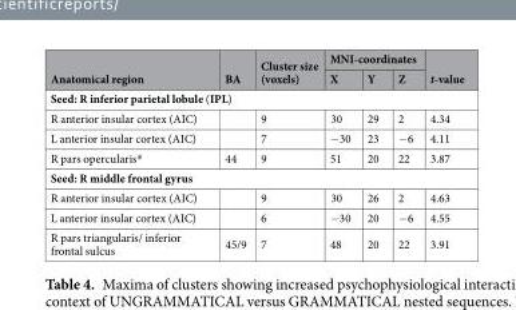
<table><thead><tr><td rowspan="2">Anatomical region</td><td rowspan="2">BA</td><td rowspan="2">Cluster size (voxels)</td><td colspan="3">MNI-coordinates</td><td rowspan="2">t-value</td></tr><tr><td>X</td><td>Y</td><td>Z</td></tr></thead><tbody><tr><td colspan="7">Seed: R inferior parietal lobule (IPL)</td></tr><tr><td>R anterior insular cortex (AIC)</td><td></td><td>9</td><td>30</td><td>29</td><td>2</td><td>4.34</td></tr><tr><td>L anterior insular cortex (AIC)</td><td></td><td>7</td><td>−30</td><td>23</td><td>−6</td><td>4.11</td></tr><tr><td>R pars opercularis*</td><td>44</td><td>9</td><td>51</td><td>20</td><td>22</td><td>3.87</td></tr><tr><td colspan="7">Seed: R middle frontal gyrus</td></tr><tr><td>R anterior insular cortex (AIC)</td><td></td><td>9</td><td>30</td><td>26</td><td>2</td><td>4.63</td></tr><tr><td>L anterior insular cortex (AIC)</td><td></td><td>6</td><td>−30</td><td>20</td><td>−6</td><td>4.55</td></tr><tr><td>R pars triangularis/ inferior frontal sulcus</td><td>45/9</td><td>7</td><td>48</td><td>20</td><td>22</td><td>3.91</td></tr></tbody></table>